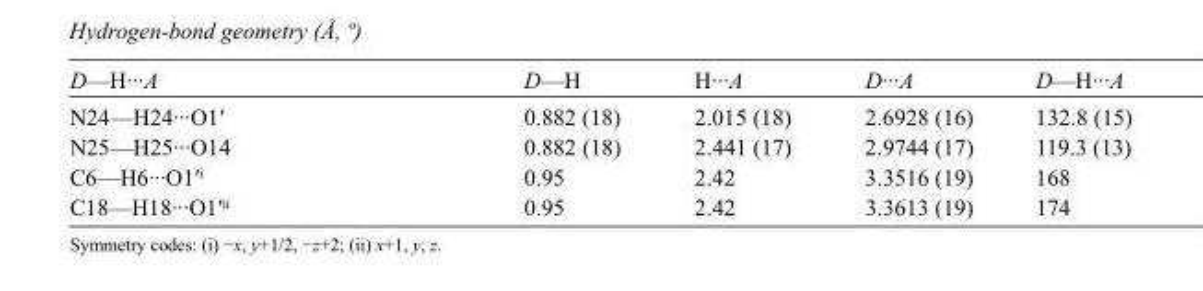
<table><tbody><tr><td>D—H···A</td><td>D—H</td><td>H···A</td><td>D···A</td><td>D—H···A</td></tr><tr><td>N24—H24···O1′</td><td>0.882 (18)</td><td>2.015 (18)</td><td>2.6928 (16)</td><td>132.8 (15)</td></tr><tr><td>N25—H25···O14</td><td>0.882 (18)</td><td>2.441 (17)</td><td>2.9744 (17)</td><td>119.3 (13)</td></tr><tr><td>C6—H6···O1′<sup>i</sup></td><td>0.95</td><td>2.42</td><td>3.3516 (19)</td><td>168</td></tr><tr><td>C18—H18···O1′<sup>ii</sup></td><td>0.95</td><td>2.42</td><td>3.3613 (19)</td><td>174</td></tr></tbody></table>